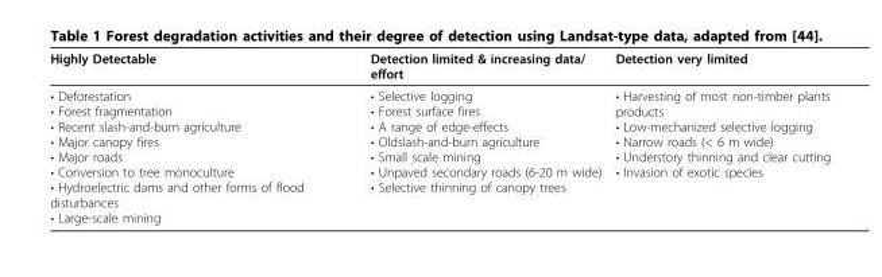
<table><thead><tr><td>Highly Detectable</td><td>Detection limited &amp; increasing data/ effort</td><td>Detection very limited</td></tr></thead><tbody><tr><td>• Deforestation • Forest fragmentation • Recent slash-and-burn agriculture • Major canopy fires • Major roads • Conversion to tree monoculture • Hydroelectric dams and other forms of flood disturbances • Large-scale mining</td><td>• Selective logging • Forest surface fires • A range of edge-effects • Oldslash-and-burn agriculture • Small scale mining • Unpaved secondary roads (6-20 m wide) • Selective thinning of canopy trees</td><td>• Harvesting of most non-timber plants products • Low-mechanized selective logging • Narrow roads (&lt; 6 m wide) • Understory thinning and clear cutting • Invasion of exotic species</td></tr></tbody></table>